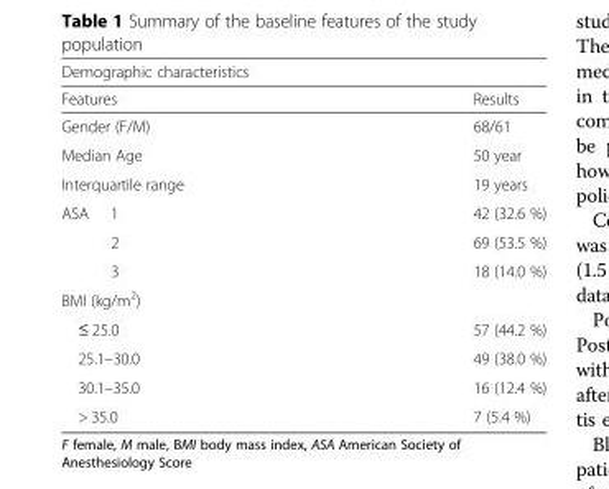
<table><thead><tr><td colspan="2">Demographic characteristics</td></tr><tr><td>Features</td><td>Results</td></tr></thead><tbody><tr><td>Gender (F/M)</td><td>68/61</td></tr><tr><td>Median Age</td><td>50 year</td></tr><tr><td>Interquartile range</td><td>19 years</td></tr><tr><td>ASA 1</td><td>42 (32.6 %)</td></tr><tr><td>2</td><td>69 (53.5 %)</td></tr><tr><td>3</td><td>18 (14.0 %)</td></tr><tr><td colspan="2">BMI (kg/m<sup>2</sup>)</td></tr><tr><td>≤ 25.0</td><td>57 (44.2 %)</td></tr><tr><td>25.1–30.0</td><td>49 (38.0 %)</td></tr><tr><td>30.1–35.0</td><td>16 (12.4 %)</td></tr><tr><td>&gt; 35.0</td><td>7 (5.4 %)</td></tr></tbody></table>